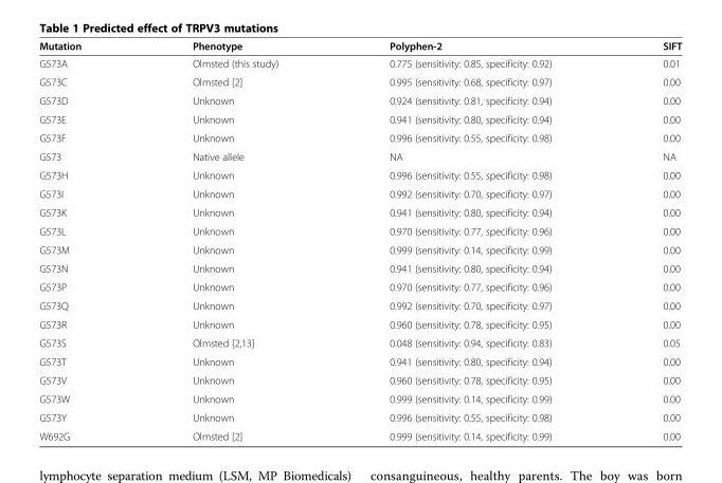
<table><thead><tr><td>Mutation</td><td>Phenotype</td><td>Polyphen-2</td><td>SIFT</td></tr></thead><tbody><tr><td>G573A</td><td>Olmsted (this study)</td><td>0.775 (sensitivity: 0.85, specificity: 0.92)</td><td>0.01</td></tr><tr><td>G573C</td><td>Olmsted [2]</td><td>0.995 (sensitivity: 0.68, specificity: 0.97)</td><td>0.00</td></tr><tr><td>G573D</td><td>Unknown</td><td>0.924 (sensitivity: 0.81, specificity: 0.94)</td><td>0.00</td></tr><tr><td>G573E</td><td>Unknown</td><td>0.941 (sensitivity: 0.80, specificity: 0.94)</td><td>0.00</td></tr><tr><td>G573F</td><td>Unknown</td><td>0.996 (sensitivity: 0.55, specificity: 0.98)</td><td>0.00</td></tr><tr><td>G573</td><td>Native allele</td><td>NA</td><td>NA</td></tr><tr><td>G573H</td><td>Unknown</td><td>0.996 (sensitivity: 0.55, specificity: 0.98)</td><td>0.00</td></tr><tr><td>G573I</td><td>Unknown</td><td>0.992 (sensitivity: 0.70, specificity: 0.97)</td><td>0.00</td></tr><tr><td>G573K</td><td>Unknown</td><td>0.941 (sensitivity: 0.80, specificity: 0.94)</td><td>0.00</td></tr><tr><td>G573L</td><td>Unknown</td><td>0.970 (sensitivity: 0.77, specificity: 0.96)</td><td>0.00</td></tr><tr><td>G573M</td><td>Unknown</td><td>0.999 (sensitivity: 0.14, specificity: 0.99)</td><td>0.00</td></tr><tr><td>G573N</td><td>Unknown</td><td>0.941 (sensitivity: 0.80, specificity: 0.94)</td><td>0.00</td></tr><tr><td>G573P</td><td>Unknown</td><td>0.970 (sensitivity: 0.77, specificity: 0.96)</td><td>0.00</td></tr><tr><td>G573Q</td><td>Unknown</td><td>0.992 (sensitivity: 0.70, specificity: 0.97)</td><td>0.00</td></tr><tr><td>G573R</td><td>Unknown</td><td>0.960 (sensitivity: 0.78, specificity: 0.95)</td><td>0.00</td></tr><tr><td>G573S</td><td>Olmsted [2,13]</td><td>0.048 (sensitivity: 0.94, specificity: 0.83)</td><td>0.05</td></tr><tr><td>G573T</td><td>Unknown</td><td>0.941 (sensitivity: 0.80, specificity: 0.94)</td><td>0.00</td></tr><tr><td>G573V</td><td>Unknown</td><td>0.960 (sensitivity: 0.78, specificity: 0.95)</td><td>0.00</td></tr><tr><td>G573W</td><td>Unknown</td><td>0.999 (sensitivity: 0.14, specificity: 0.99)</td><td>0.00</td></tr><tr><td>G573Y</td><td>Unknown</td><td>0.996 (sensitivity: 0.55, specificity: 0.98)</td><td>0.00</td></tr><tr><td>W692G</td><td>Olmsted [2]</td><td>0.999 (sensitivity: 0.14, specificity: 0.99)</td><td>0.00</td></tr></tbody></table>